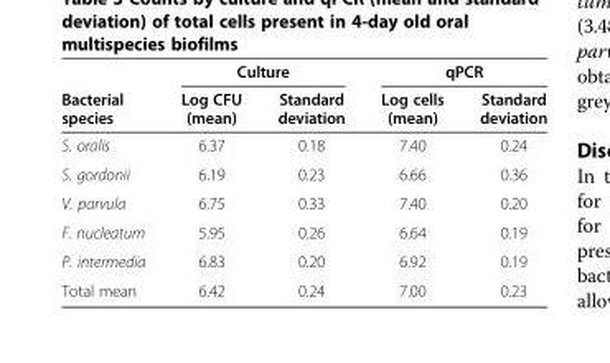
<table><thead><tr><td rowspan="2">Bacterial species</td><td colspan="2">Culture</td><td colspan="2">qPCR</td></tr><tr><td>Log CFU (mean)</td><td>Standard deviation</td><td>Log cells (mean)</td><td>Standard deviation</td></tr></thead><tbody><tr><td>S. oralis</td><td>6.37</td><td>0.18</td><td>7.40</td><td>0.24</td></tr><tr><td>S. gordonii</td><td>6.19</td><td>0.23</td><td>6.66</td><td>0.36</td></tr><tr><td>V. parvula</td><td>6.75</td><td>0.33</td><td>7.40</td><td>0.20</td></tr><tr><td>F. nucleatum</td><td>5.95</td><td>0.26</td><td>6.64</td><td>0.19</td></tr><tr><td>P. intermedia</td><td>6.83</td><td>0.20</td><td>6.92</td><td>0.19</td></tr><tr><td>Total mean</td><td>6.42</td><td>0.24</td><td>7.00</td><td>0.23</td></tr></tbody></table>